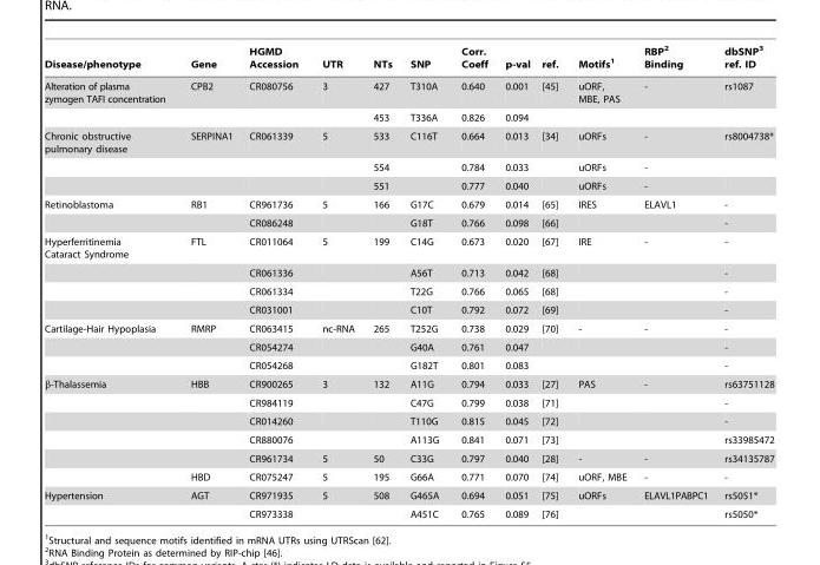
<table><thead><tr><td>Disease/phenotype</td><td>Gene</td><td>HGMD Accession</td><td>UTR</td><td>NTs</td><td>SNP</td><td>Corr. Coeff</td><td>p-val</td><td>ref.</td><td>Motifs<sup>1</sup></td><td>RBP<sup>2</sup> Binding</td><td>dbSNP<sup>3</sup> ref. ID</td></tr></thead><tbody><tr><td rowspan="2">Alteration of plasma zymogen TAFI concentration</td><td>CPB2</td><td>CR080756</td><td>3</td><td>427</td><td>T310A</td><td>0.640</td><td>0.001</td><td>[45]</td><td>uORF, MBE, PAS</td><td>-</td><td>rs1087</td></tr><tr><td></td><td></td><td></td><td>453</td><td>T336A</td><td>0.826</td><td>0.094</td><td></td><td></td><td></td><td></td></tr><tr><td rowspan="3">Chronic obstructive pulmonary disease</td><td>SERPINA1</td><td>CR061339</td><td>5</td><td>533</td><td>C116T</td><td>0.664</td><td>0.013</td><td>[34]</td><td>uORFs</td><td>-</td><td>rs8004738*</td></tr><tr><td></td><td></td><td></td><td>554</td><td></td><td>0.784</td><td>0.033</td><td></td><td>uORFs</td><td>-</td><td></td></tr><tr><td></td><td></td><td></td><td>551</td><td></td><td>0.777</td><td>0.040</td><td></td><td>uORFs</td><td>-</td><td></td></tr><tr><td rowspan="2">Retinoblastoma</td><td>RB1</td><td>CR961736</td><td>5</td><td>166</td><td>G17C</td><td>0.679</td><td>0.014</td><td>[65]</td><td>IRES</td><td>ELAVL1</td><td>-</td></tr><tr><td></td><td>CR086248</td><td></td><td></td><td>G18T</td><td>0.766</td><td>0.098</td><td>[66]</td><td></td><td></td><td>-</td></tr><tr><td rowspan="4">Hyperferritinemia Cataract Syndrome</td><td>FTL</td><td>CR011064</td><td>5</td><td>199</td><td>C14G</td><td>0.673</td><td>0.020</td><td>[67]</td><td>IRE</td><td>-</td><td>-</td></tr><tr><td></td><td>CR061336</td><td></td><td></td><td>A56T</td><td>0.713</td><td>0.042</td><td>[68]</td><td></td><td></td><td>-</td></tr><tr><td></td><td>CR061334</td><td></td><td></td><td>T22G</td><td>0.766</td><td>0.065</td><td>[68]</td><td></td><td></td><td>-</td></tr><tr><td></td><td>CR031001</td><td></td><td></td><td>C10T</td><td>0.792</td><td>0.072</td><td>[69]</td><td></td><td></td><td>-</td></tr><tr><td rowspan="3">Cartilage-Hair Hypoplasia</td><td>RMRP</td><td>CR063415</td><td>nc-RNA</td><td>265</td><td>T252G</td><td>0.738</td><td>0.029</td><td>[70]</td><td>-</td><td>-</td><td>-</td></tr><tr><td></td><td>CR054274</td><td></td><td></td><td>G40A</td><td>0.761</td><td>0.047</td><td></td><td></td><td></td><td>-</td></tr><tr><td></td><td>CR054268</td><td></td><td></td><td>G182T</td><td>0.801</td><td>0.083</td><td></td><td></td><td></td><td>-</td></tr><tr><td rowspan="6">β-Thalassemia</td><td>HBB</td><td>CR900265</td><td>3</td><td>132</td><td>A11G</td><td>0.794</td><td>0.033</td><td>[27]</td><td>PAS</td><td>-</td><td>rs63751128</td></tr><tr><td></td><td>CR984119</td><td></td><td></td><td>C47G</td><td>0.799</td><td>0.038</td><td>[71]</td><td></td><td></td><td>-</td></tr><tr><td></td><td>CR014260</td><td></td><td></td><td>T110G</td><td>0.815</td><td>0.045</td><td>[72]</td><td></td><td></td><td>-</td></tr><tr><td></td><td>CR880076</td><td></td><td></td><td>A113G</td><td>0.841</td><td>0.071</td><td>[73]</td><td></td><td></td><td>rs33985472</td></tr><tr><td></td><td>CR961734</td><td>5</td><td>50</td><td>C33G</td><td>0.797</td><td>0.040</td><td>[28]</td><td>-</td><td>-</td><td>rs34135787</td></tr><tr><td>HBD</td><td>CR075247</td><td>5</td><td>195</td><td>G66A</td><td>0.771</td><td>0.070</td><td>[74]</td><td>uORF, MBE</td><td>-</td><td>-</td></tr><tr><td rowspan="2">Hypertension</td><td>AGT</td><td>CR971935</td><td>5</td><td>508</td><td>G465A</td><td>0.694</td><td>0.051</td><td>[75]</td><td>uORFs</td><td>ELAVL1PABPC1</td><td>rs5051*</td></tr><tr><td></td><td>CR973338</td><td></td><td></td><td>A451C</td><td>0.765</td><td>0.089</td><td>[76]</td><td></td><td></td><td>rs5050*</td></tr></tbody></table>